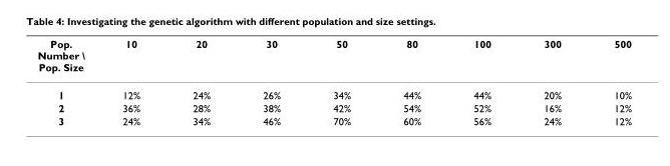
<table><thead><tr><td>Pop. Number \ Pop. Size</td><td>10</td><td>20</td><td>30</td><td>50</td><td>80</td><td>100</td><td>300</td><td>500</td></tr></thead><tbody><tr><td>1</td><td>12%</td><td>24%</td><td>26%</td><td>34%</td><td>44%</td><td>44%</td><td>20%</td><td>10%</td></tr><tr><td>2</td><td>36%</td><td>28%</td><td>38%</td><td>42%</td><td>54%</td><td>52%</td><td>16%</td><td>12%</td></tr><tr><td>3</td><td>24%</td><td>34%</td><td>46%</td><td>70%</td><td>60%</td><td>56%</td><td>24%</td><td>12%</td></tr></tbody></table>